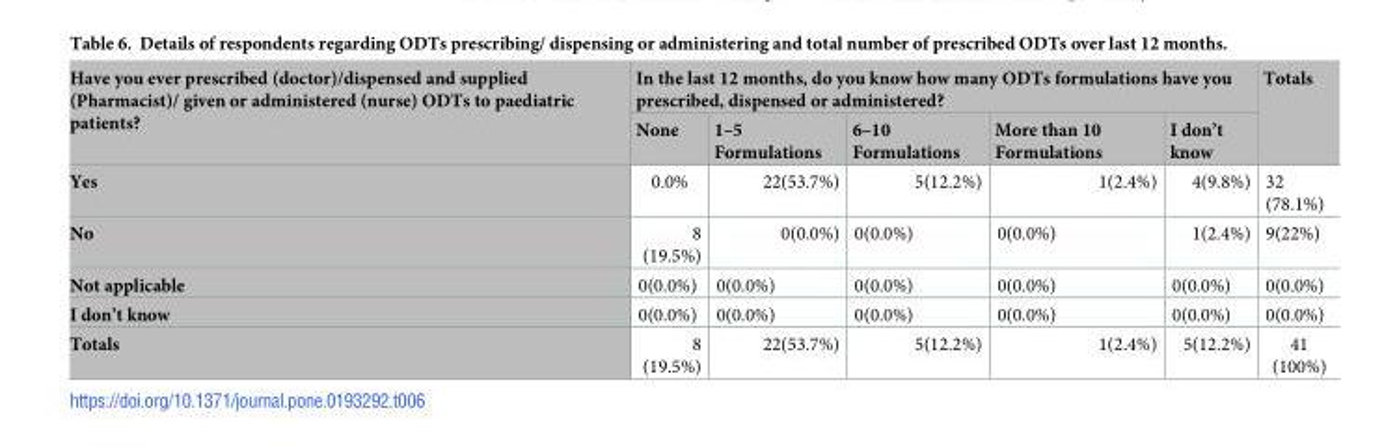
<table><thead><tr><td rowspan="2">Have you ever prescribed (doctor)/dispensed and supplied (Pharmacist)/ given or administered (nurse) ODTs to paediatric patients?</td><td colspan="5">In the last 12 months, do you know how many ODTs formulations have you prescribed, dispensed or administered?</td><td rowspan="2">Totals</td></tr><tr><td>None</td><td>1–5 Formulations</td><td>6–10 Formulations</td><td>More than 10 Formulations</td><td>I don’t know</td></tr></thead><tbody><tr><td>Yes</td><td>0.0%</td><td>22(53.7%)</td><td>5(12.2%)</td><td>1(2.4%)</td><td>4(9.8%)</td><td>32 (78.1%)</td></tr><tr><td>No</td><td>8 (19.5%)</td><td>0(0.0%)</td><td>0(0.0%)</td><td>0(0.0%)</td><td>1(2.4%)</td><td>9(22%)</td></tr><tr><td>Not applicable</td><td>0(0.0%)</td><td>0(0.0%)</td><td>0(0.0%)</td><td>0(0.0%)</td><td>0(0.0%)</td><td>0(0.0%)</td></tr><tr><td>I don’t know</td><td>0(0.0%)</td><td>0(0.0%)</td><td>0(0.0%)</td><td>0(0.0%)</td><td>0(0.0%)</td><td>0(0.0%)</td></tr><tr><td>Totals</td><td>8 (19.5%)</td><td>22(53.7%)</td><td>5(12.2%)</td><td>1(2.4%)</td><td>5(12.2%)</td><td>41 (100%)</td></tr></tbody></table>